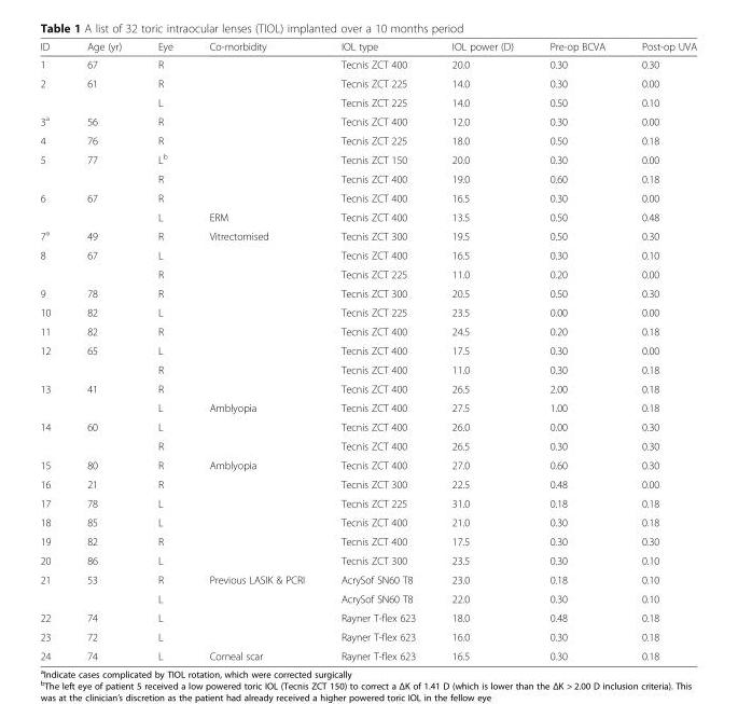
<table><thead><tr><td>ID</td><td>Age (yr)</td><td>Eye</td><td>Co-morbidity</td><td>IOL type</td><td>IOL power (D)</td><td>Pre-op BCVA</td><td>Post-op UVA</td></tr></thead><tbody><tr><td>1</td><td>67</td><td>R</td><td></td><td>Tecnis ZCT 400</td><td>20.0</td><td>0.30</td><td>0.30</td></tr><tr><td rowspan="2">2</td><td rowspan="2">61</td><td>R</td><td></td><td>Tecnis ZCT 225</td><td>14.0</td><td>0.30</td><td>0.00</td></tr><tr><td>L</td><td></td><td>Tecnis ZCT 225</td><td>14.0</td><td>0.50</td><td>0.10</td></tr><tr><td>3<sup>a</sup></td><td>56</td><td>R</td><td></td><td>Tecnis ZCT 400</td><td>12.0</td><td>0.30</td><td>0.00</td></tr><tr><td>4</td><td>76</td><td>R</td><td></td><td>Tecnis ZCT 225</td><td>18.0</td><td>0.50</td><td>0.18</td></tr><tr><td rowspan="2">5</td><td rowspan="2">77</td><td>L<sup>b</sup></td><td></td><td>Tecnis ZCT 150</td><td>20.0</td><td>0.30</td><td>0.00</td></tr><tr><td>R</td><td></td><td>Tecnis ZCT 400</td><td>19.0</td><td>0.60</td><td>0.18</td></tr><tr><td rowspan="2">6</td><td rowspan="2">67</td><td>R</td><td></td><td>Tecnis ZCT 400</td><td>16.5</td><td>0.30</td><td>0.00</td></tr><tr><td>L</td><td>ERM</td><td>Tecnis ZCT 400</td><td>13.5</td><td>0.50</td><td>0.48</td></tr><tr><td>7<sup>a</sup></td><td>49</td><td>R</td><td>Vitrectomised</td><td>Tecnis ZCT 300</td><td>19.5</td><td>0.50</td><td>0.30</td></tr><tr><td rowspan="2">8</td><td rowspan="2">67</td><td>L</td><td></td><td>Tecnis ZCT 400</td><td>16.5</td><td>0.30</td><td>0.10</td></tr><tr><td>R</td><td></td><td>Tecnis ZCT 225</td><td>11.0</td><td>0.20</td><td>0.00</td></tr><tr><td>9</td><td>78</td><td>R</td><td></td><td>Tecnis ZCT 300</td><td>20.5</td><td>0.50</td><td>0.30</td></tr><tr><td>10</td><td>82</td><td>L</td><td></td><td>Tecnis ZCT 225</td><td>23.5</td><td>0.00</td><td>0.00</td></tr><tr><td>11</td><td>82</td><td>R</td><td></td><td>Tecnis ZCT 400</td><td>24.5</td><td>0.20</td><td>0.18</td></tr><tr><td rowspan="2">12</td><td rowspan="2">65</td><td>L</td><td></td><td>Tecnis ZCT 400</td><td>17.5</td><td>0.30</td><td>0.00</td></tr><tr><td>R</td><td></td><td>Tecnis ZCT 400</td><td>11.0</td><td>0.30</td><td>0.18</td></tr><tr><td rowspan="2">13</td><td rowspan="2">41</td><td>R</td><td></td><td>Tecnis ZCT 400</td><td>26.5</td><td>2.00</td><td>0.18</td></tr><tr><td>L</td><td>Amblyopia</td><td>Tecnis ZCT 400</td><td>27.5</td><td>1.00</td><td>0.18</td></tr><tr><td rowspan="2">14</td><td rowspan="2">60</td><td>L</td><td></td><td>Tecnis ZCT 400</td><td>26.0</td><td>0.00</td><td>0.30</td></tr><tr><td>R</td><td></td><td>Tecnis ZCT 400</td><td>26.5</td><td>0.30</td><td>0.30</td></tr><tr><td>15</td><td>80</td><td>R</td><td>Amblyopia</td><td>Tecnis ZCT 400</td><td>27.0</td><td>0.60</td><td>0.30</td></tr><tr><td>16</td><td>21</td><td>R</td><td></td><td>Tecnis ZCT 300</td><td>22.5</td><td>0.48</td><td>0.00</td></tr><tr><td>17</td><td>78</td><td>L</td><td></td><td>Tecnis ZCT 225</td><td>31.0</td><td>0.18</td><td>0.18</td></tr><tr><td>18</td><td>85</td><td>L</td><td></td><td>Tecnis ZCT 400</td><td>21.0</td><td>0.30</td><td>0.18</td></tr><tr><td>19</td><td>82</td><td>R</td><td></td><td>Tecnis ZCT 400</td><td>17.5</td><td>0.30</td><td>0.30</td></tr><tr><td>20</td><td>86</td><td>L</td><td></td><td>Tecnis ZCT 300</td><td>23.5</td><td>0.30</td><td>0.10</td></tr><tr><td rowspan="2">21</td><td rowspan="2">53</td><td>R</td><td rowspan="2">Previous LASIK &amp; PCRI</td><td>AcrySof SN60 T8</td><td>23.0</td><td>0.18</td><td>0.10</td></tr><tr><td>L</td><td>AcrySof SN60 T8</td><td>22.0</td><td>0.30</td><td>0.10</td></tr><tr><td>22</td><td>74</td><td>L</td><td></td><td>Rayner T-flex 623</td><td>18.0</td><td>0.48</td><td>0.18</td></tr><tr><td>23</td><td>72</td><td>L</td><td></td><td>Rayner T-flex 623</td><td>16.0</td><td>0.30</td><td>0.18</td></tr><tr><td>24</td><td>74</td><td>L</td><td>Corneal scar</td><td>Rayner T-flex 623</td><td>16.5</td><td>0.30</td><td>0.18</td></tr></tbody></table>